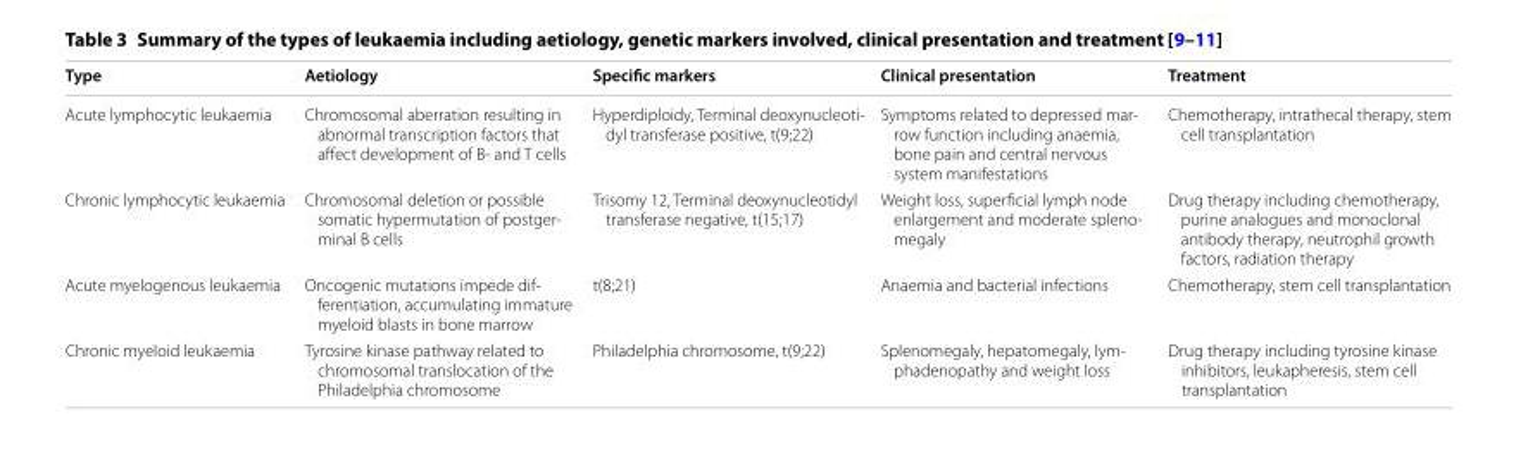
<table><thead><tr><td>Type</td><td>Aetiology</td><td>Specific markers</td><td>Clinical presentation</td><td>Treatment</td></tr></thead><tbody><tr><td>Acute lymphocytic leukaemia</td><td>Chromosomal aberration resulting in abnormal transcription factors that affect development of B- and T cells</td><td>Hyperdiploidy, Terminal deoxynucleoti- dyl transferase positive, t(9;22)</td><td>Symptoms related to depressed mar- row function including anaemia, bone pain and central nervous system manifestations</td><td>Chemotherapy, intrathecal therapy, stem cell transplantation</td></tr><tr><td>Chronic lymphocytic leukaemia</td><td>Chromosomal deletion or possible somatic hypermutation of postger- minal B cells</td><td>Trisomy 12, Terminal deoxynucleotidyl transferase negative, t(15;17)</td><td>Weight loss, superficial lymph node enlargement and moderate spleno- megaly</td><td>Drug therapy including chemotherapy, purine analogues and monoclonal antibody therapy, neutrophil growth factors, radiation therapy</td></tr><tr><td>Acute myelogenous leukaemia</td><td>Oncogenic mutations impede dif- ferentiation, accumulating immature myeloid blasts in bone marrow</td><td>t(8;21)</td><td>Anaemia and bacterial infections</td><td>Chemotherapy, stem cell transplantation</td></tr><tr><td>Chronic myeloid leukaemia</td><td>Tyrosine kinase pathway related to chromosomal translocation of the Philadelphia chromosome</td><td>Philadelphia chromosome, t(9;22)</td><td>Splenomegaly, hepatomegaly, lym- phadenopathy and weight loss</td><td>Drug therapy including tyrosine kinase inhibitors, leukapheresis, stem cell transplantation</td></tr></tbody></table>